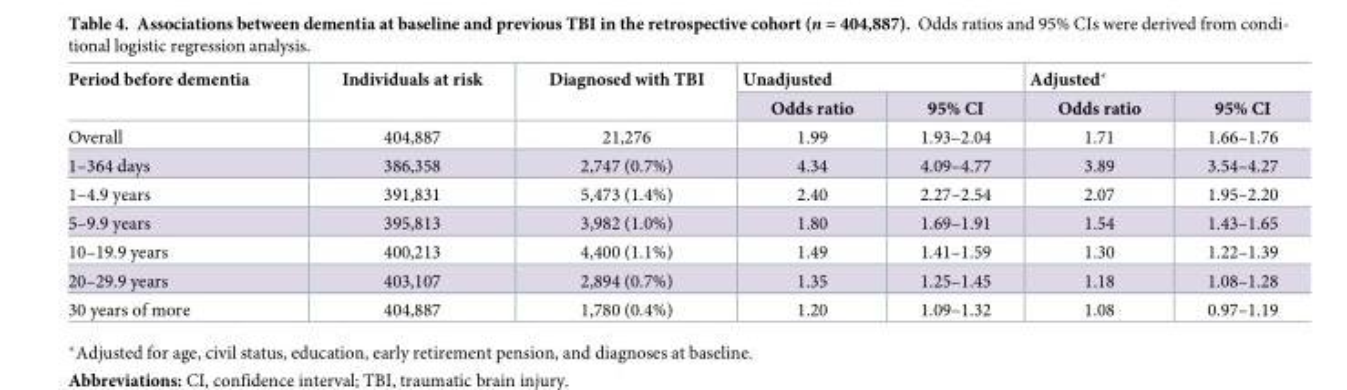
<table><thead><tr><td rowspan="2">Period before dementia</td><td rowspan="2">Individuals at risk</td><td rowspan="2">Diagnosed with TBI</td><td colspan="2">Unadjusted</td><td colspan="2">Adjusted*</td></tr><tr><td>Odds ratio</td><td>95% CI</td><td>Odds ratio</td><td>95% CI</td></tr></thead><tbody><tr><td>Overall</td><td>404,887</td><td>21,276</td><td>1.99</td><td>1.93–2.04</td><td>1.71</td><td>1.66–1.76</td></tr><tr><td>1–364 days</td><td>386,358</td><td>2,747 (0.7%)</td><td>4.34</td><td>4.09–4.77</td><td>3.89</td><td>3.54–4.27</td></tr><tr><td>1–4.9 years</td><td>391,831</td><td>5,473 (1.4%)</td><td>2.40</td><td>2.27–2.54</td><td>2.07</td><td>1.95–2.20</td></tr><tr><td>5–9.9 years</td><td>395,813</td><td>3,982 (1.0%)</td><td>1.80</td><td>1.69–1.91</td><td>1.54</td><td>1.43–1.65</td></tr><tr><td>10–19.9 years</td><td>400,213</td><td>4,400 (1.1%)</td><td>1.49</td><td>1.41–1.59</td><td>1.30</td><td>1.22–1.39</td></tr><tr><td>20–29.9 years</td><td>403,107</td><td>2,894 (0.7%)</td><td>1.35</td><td>1.25–1.45</td><td>1.18</td><td>1.08–1.28</td></tr><tr><td>30 years of more</td><td>404,887</td><td>1,780 (0.4%)</td><td>1.20</td><td>1.09–1.32</td><td>1.08</td><td>0.97–1.19</td></tr></tbody></table>